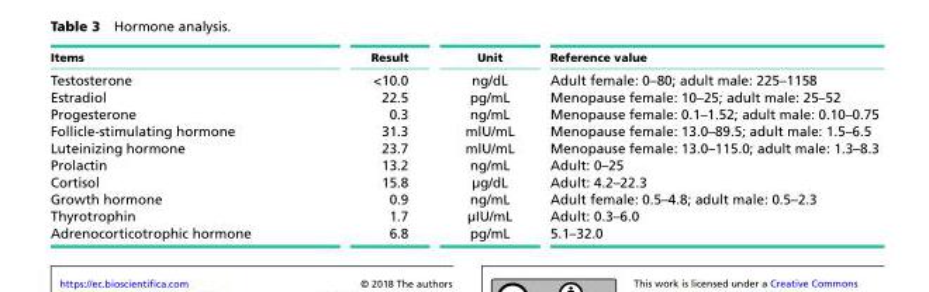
<table><thead><tr><td>Items</td><td>Result</td><td>Unit</td><td>Reference value</td></tr></thead><tbody><tr><td>Testosterone</td><td>&lt;10.0</td><td>ng/dL</td><td>Adult female: 0–80; adult male: 225–1158</td></tr><tr><td>Estradiol</td><td>22.5</td><td>pg/mL</td><td>Menopause female: 10–25; adult male: 25–52</td></tr><tr><td>Progesterone</td><td>0.3</td><td>ng/mL</td><td>Menopause female: 0.1–1.52; adult male: 0.10–0.75</td></tr><tr><td>Follicle-stimulating hormone</td><td>31.3</td><td>mlU/mL</td><td>Menopause female: 13.0–89.5; adult male: 1.5–6.5</td></tr><tr><td>Luteinizing hormone</td><td>23.7</td><td>mlU/mL</td><td>Menopause female: 13.0–115.0; adult male: 1.3–8.3</td></tr><tr><td>Prolactin</td><td>13.2</td><td>ng/mL</td><td>Adult: 0–25</td></tr><tr><td>Cortisol</td><td>15.8</td><td>µg/dL</td><td>Adult: 4.2–22.3</td></tr><tr><td>Growth hormone</td><td>0.9</td><td>ng/mL</td><td>Adult female: 0.5–4.8; adult male: 0.5–2.3</td></tr><tr><td>Thyrotrophin</td><td>1.7</td><td>µIU/mL</td><td>Adult: 0.3–6.0</td></tr><tr><td>Adrenocorticotrophic hormone</td><td>6.8</td><td>pg/mL</td><td>5.1–32.0</td></tr></tbody></table>